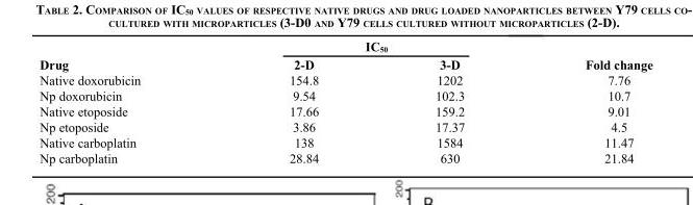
<table><thead><tr><td rowspan="2">Drug</td><td colspan="2">IC<sub>50</sub></td><td rowspan="2">Fold change</td></tr><tr><td>2-D</td><td>3-D</td></tr></thead><tbody><tr><td>Native doxorubicin</td><td>154.8</td><td>1202</td><td>7.76</td></tr><tr><td>Np doxorubicin</td><td>9.54</td><td>102.3</td><td>10.7</td></tr><tr><td>Native etoposide</td><td>17.66</td><td>159.2</td><td>9.01</td></tr><tr><td>Np etoposide</td><td>3.86</td><td>17.37</td><td>4.5</td></tr><tr><td>Native carboplatin</td><td>138</td><td>1584</td><td>11.47</td></tr><tr><td>Np carboplatin</td><td>28.84</td><td>630</td><td>21.84</td></tr></tbody></table>